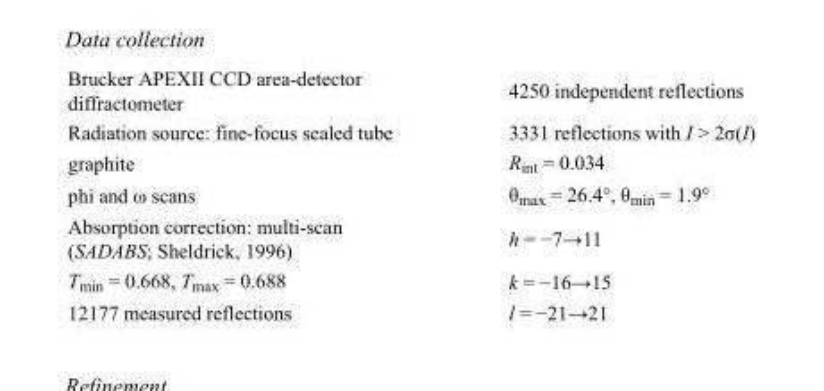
<table><tbody><tr><td>Brucker APEXII CCD area-detector diffractometer</td><td>4250 independent reflections</td></tr><tr><td>Radiation source: fine-focus sealed tube</td><td>3331 reflections with I &gt; 2σ(I)</td></tr><tr><td>graphite</td><td>R<sub>int</sub> = 0.034</td></tr><tr><td>phi and ω scans</td><td>θ<sub>max</sub> = 26.4°, θ<sub>min</sub> = 1.9°</td></tr><tr><td>Absorption correction: multi-scan (SADABS; Sheldrick, 1996)</td><td>h = −7→11</td></tr><tr><td>T<sub>min</sub> = 0.668, T<sub>max</sub> = 0.688</td><td>k = −16→15</td></tr><tr><td>12177 measured reflections</td><td>l = −21→21</td></tr></tbody></table>